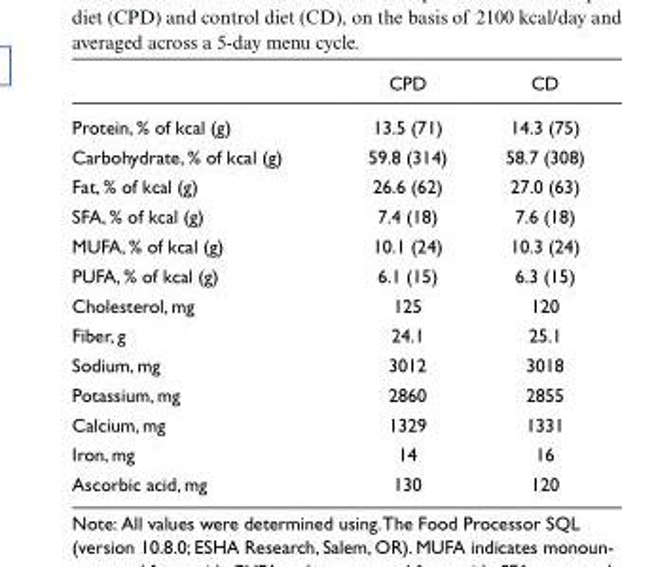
<table><thead><tr><td></td><td>CPD</td><td>CD</td></tr></thead><tbody><tr><td>Protein, % of kcal (g)</td><td>13.5 (71)</td><td>14.3 (75)</td></tr><tr><td>Carbohydrate, % of kcal (g)</td><td>59.8 (314)</td><td>58.7 (308)</td></tr><tr><td>Fat, % of kcal (g)</td><td>26.6 (62)</td><td>27.0 (63)</td></tr><tr><td>SFA, % of kcal (g)</td><td>7.4 (18)</td><td>7.6 (18)</td></tr><tr><td>MUFA, % of kcal (g)</td><td>10.1 (24)</td><td>10.3 (24)</td></tr><tr><td>PUFA, % of kcal (g)</td><td>6.1 (15)</td><td>6.3 (15)</td></tr><tr><td>Cholesterol, mg</td><td>125</td><td>120</td></tr><tr><td>Fiber, g</td><td>24.1</td><td>25.1</td></tr><tr><td>Sodium, mg</td><td>3012</td><td>3018</td></tr><tr><td>Potassium, mg</td><td>2860</td><td>2855</td></tr><tr><td>Calcium, mg</td><td>1329</td><td>1331</td></tr><tr><td>Iron, mg</td><td>14</td><td>16</td></tr><tr><td>Ascorbic acid, mg</td><td>130</td><td>120</td></tr></tbody></table>